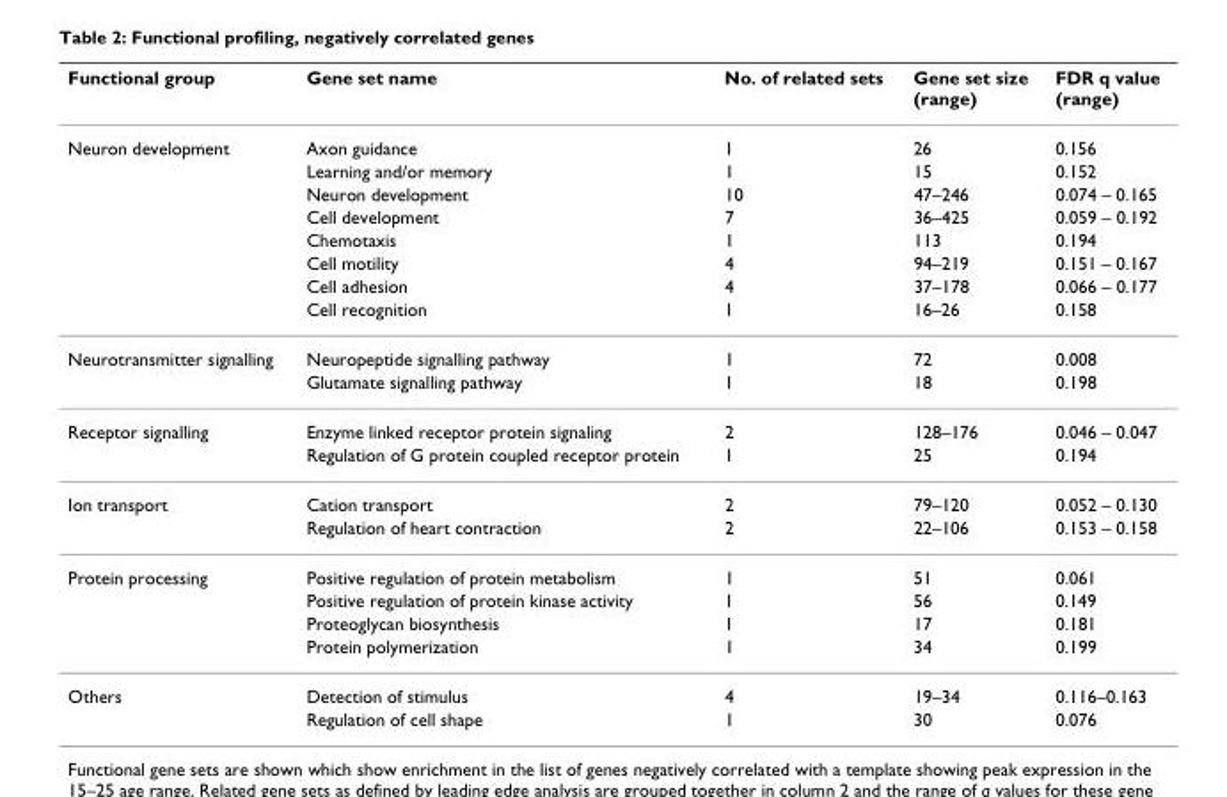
<table><thead><tr><td>Functional group</td><td>Gene set name</td><td>No. of related sets</td><td>Gene set size (range)</td><td>FDR q value (range)</td></tr></thead><tbody><tr><td rowspan="8">Neuron development</td><td>Axon guidance</td><td>1</td><td>26</td><td>0.156</td></tr><tr><td>Learning and/or memory</td><td>1</td><td>15</td><td>0.152</td></tr><tr><td>Neuron development</td><td>10</td><td>47–246</td><td>0.074 – 0.165</td></tr><tr><td>Cell development</td><td>7</td><td>36–425</td><td>0.059 – 0.192</td></tr><tr><td>Chemotaxis</td><td>1</td><td>113</td><td>0.194</td></tr><tr><td>Cell motility</td><td>4</td><td>94–219</td><td>0.151 – 0.167</td></tr><tr><td>Cell adhesion</td><td>4</td><td>37–178</td><td>0.066 – 0.177</td></tr><tr><td>Cell recognition</td><td>1</td><td>16–26</td><td>0.158</td></tr><tr><td rowspan="2">Neurotransmitter signalling</td><td>Neuropeptide signalling pathway</td><td>1</td><td>72</td><td>0.008</td></tr><tr><td>Glutamate signalling pathway</td><td>1</td><td>18</td><td>0.198</td></tr><tr><td rowspan="2">Receptor signalling</td><td>Enzyme linked receptor protein signaling</td><td>2</td><td>128–176</td><td>0.046 – 0.047</td></tr><tr><td>Regulation of G protein coupled receptor protein</td><td>1</td><td>25</td><td>0.194</td></tr><tr><td rowspan="2">Ion transport</td><td>Cation transport</td><td>2</td><td>79–120</td><td>0.052 – 0.130</td></tr><tr><td>Regulation of heart contraction</td><td>2</td><td>22–106</td><td>0.153 – 0.158</td></tr><tr><td rowspan="4">Protein processing</td><td>Positive regulation of protein metabolism</td><td>1</td><td>51</td><td>0.061</td></tr><tr><td>Positive regulation of protein kinase activity</td><td>1</td><td>56</td><td>0.149</td></tr><tr><td>Proteoglycan biosynthesis</td><td>1</td><td>17</td><td>0.181</td></tr><tr><td>Protein polymerization</td><td>1</td><td>34</td><td>0.199</td></tr><tr><td rowspan="2">Others</td><td>Detection of stimulus</td><td>4</td><td>19–34</td><td>0.116–0.163</td></tr><tr><td>Regulation of cell shape</td><td>1</td><td>30</td><td>0.076</td></tr></tbody></table>